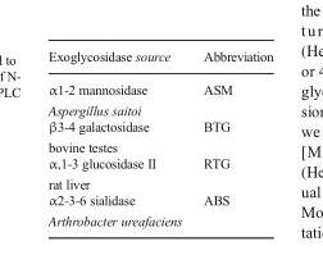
<table><thead><tr><td>Exoglycosidase source</td><td>Abbreviation</td></tr></thead><tbody><tr><td>α1-2 mannosidase Aspergillus saitoi</td><td>ASM</td></tr><tr><td>β3-4 galactosidase bovine testes</td><td>BTG</td></tr><tr><td>α,1-3 glucosidase II rat liver</td><td>RTG</td></tr><tr><td>α2-3-6 sialidase Arthrobacter ureafaciens</td><td>ABS</td></tr></tbody></table>